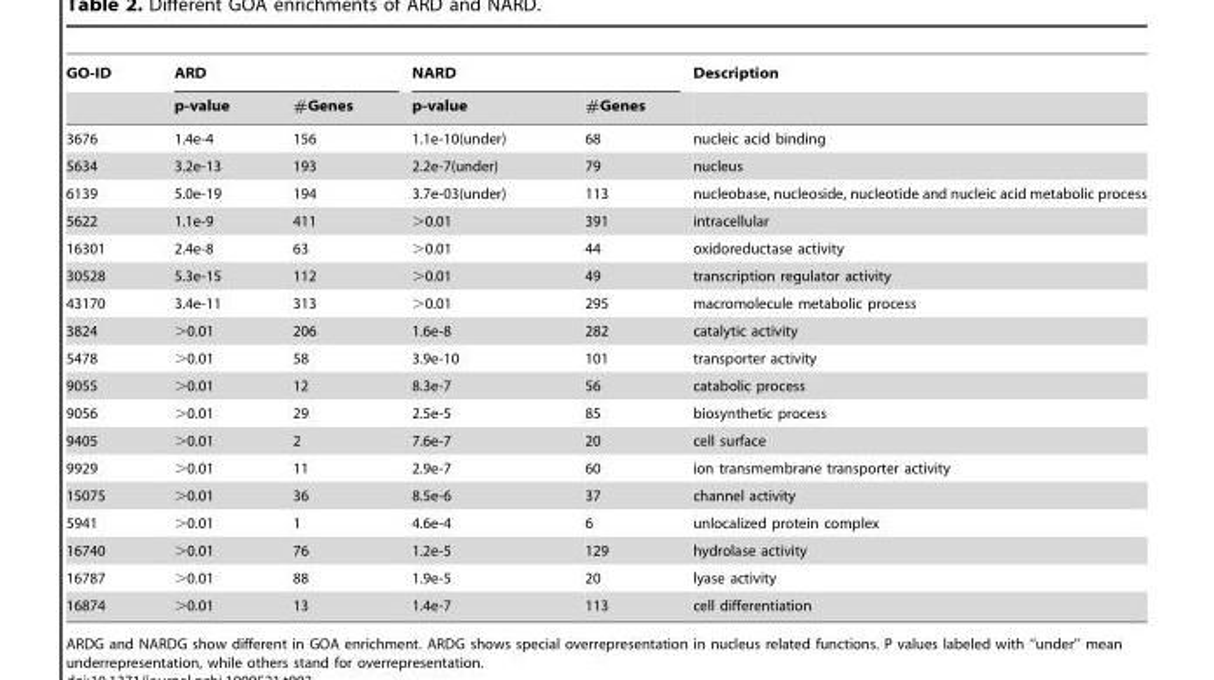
<table><thead><tr><td rowspan="2">GO-ID</td><td colspan="2">ARD</td><td colspan="2">NARD</td><td rowspan="2">Description</td></tr><tr><td>p-value</td><td>#Genes</td><td>p-value</td><td>#Genes</td></tr></thead><tbody><tr><td>3676</td><td>1.4e-4</td><td>156</td><td>1.1e-10(under)</td><td>68</td><td>nucleic acid binding</td></tr><tr><td>5634</td><td>3.2e-13</td><td>193</td><td>2.2e-7(under)</td><td>79</td><td>nucleus</td></tr><tr><td>6139</td><td>5.0e-19</td><td>194</td><td>3.7e-03(under)</td><td>113</td><td>nucleobase, nucleoside, nucleotide and nucleic acid metabolic process</td></tr><tr><td>5622</td><td>1.1e-9</td><td>411</td><td>&gt;0.01</td><td>391</td><td>intracellular</td></tr><tr><td>16301</td><td>2.4e-8</td><td>63</td><td>&gt;0.01</td><td>44</td><td>oxidoreductase activity</td></tr><tr><td>30528</td><td>5.3e-15</td><td>112</td><td>&gt;0.01</td><td>49</td><td>transcription regulator activity</td></tr><tr><td>43170</td><td>3.4e-11</td><td>313</td><td>&gt;0.01</td><td>295</td><td>macromolecule metabolic process</td></tr><tr><td>3824</td><td>&gt;0.01</td><td>206</td><td>1.6e-8</td><td>282</td><td>catalytic activity</td></tr><tr><td>5478</td><td>&gt;0.01</td><td>58</td><td>3.9e-10</td><td>101</td><td>transporter activity</td></tr><tr><td>9055</td><td>&gt;0.01</td><td>12</td><td>8.3e-7</td><td>56</td><td>catabolic process</td></tr><tr><td>9056</td><td>&gt;0.01</td><td>29</td><td>2.5e-5</td><td>85</td><td>biosynthetic process</td></tr><tr><td>9405</td><td>&gt;0.01</td><td>2</td><td>7.6e-7</td><td>20</td><td>cell surface</td></tr><tr><td>9929</td><td>&gt;0.01</td><td>11</td><td>2.9e-7</td><td>60</td><td>ion transmembrane transporter activity</td></tr><tr><td>15075</td><td>&gt;0.01</td><td>36</td><td>8.5e-6</td><td>37</td><td>channel activity</td></tr><tr><td>5941</td><td>&gt;0.01</td><td>1</td><td>4.6e-4</td><td>6</td><td>unlocalized protein complex</td></tr><tr><td>16740</td><td>&gt;0.01</td><td>76</td><td>1.2e-5</td><td>129</td><td>hydrolase activity</td></tr><tr><td>16787</td><td>&gt;0.01</td><td>88</td><td>1.9e-5</td><td>20</td><td>lyase activity</td></tr><tr><td>16874</td><td>&gt;0.01</td><td>13</td><td>1.4e-7</td><td>113</td><td>cell differentiation</td></tr></tbody></table>